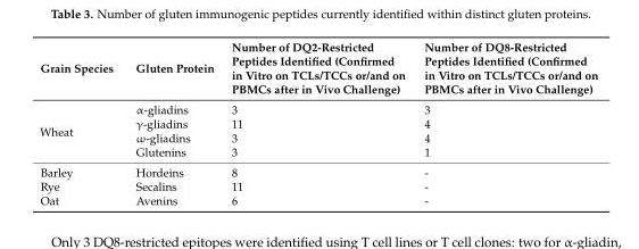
<table><thead><tr><td>Grain Species</td><td>Gluten Protein</td><td>Number of DQ2-Restricted Peptides Identified (Confirmed in Vitro on TCLs/TCCs or/and on PBMCs after in Vivo Challenge)</td><td>Number of DQ8-Restricted Peptides Identified (Confirmed in Vitro on TCLs/TCCs or/and on PBMCs after in Vivo Challenge)</td></tr></thead><tbody><tr><td rowspan="4">Wheat</td><td>α-gliadins</td><td>3</td><td>3</td></tr><tr><td>γ-gliadins</td><td>11</td><td>4</td></tr><tr><td>ω-gliadins</td><td>3</td><td>4</td></tr><tr><td>Glutenins</td><td>3</td><td>1</td></tr><tr><td>Barley</td><td>Hordeins</td><td>8</td><td>-</td></tr><tr><td>Rye</td><td>Secalins</td><td>11</td><td>-</td></tr><tr><td>Oat</td><td>Avenins</td><td>6</td><td>-</td></tr></tbody></table>